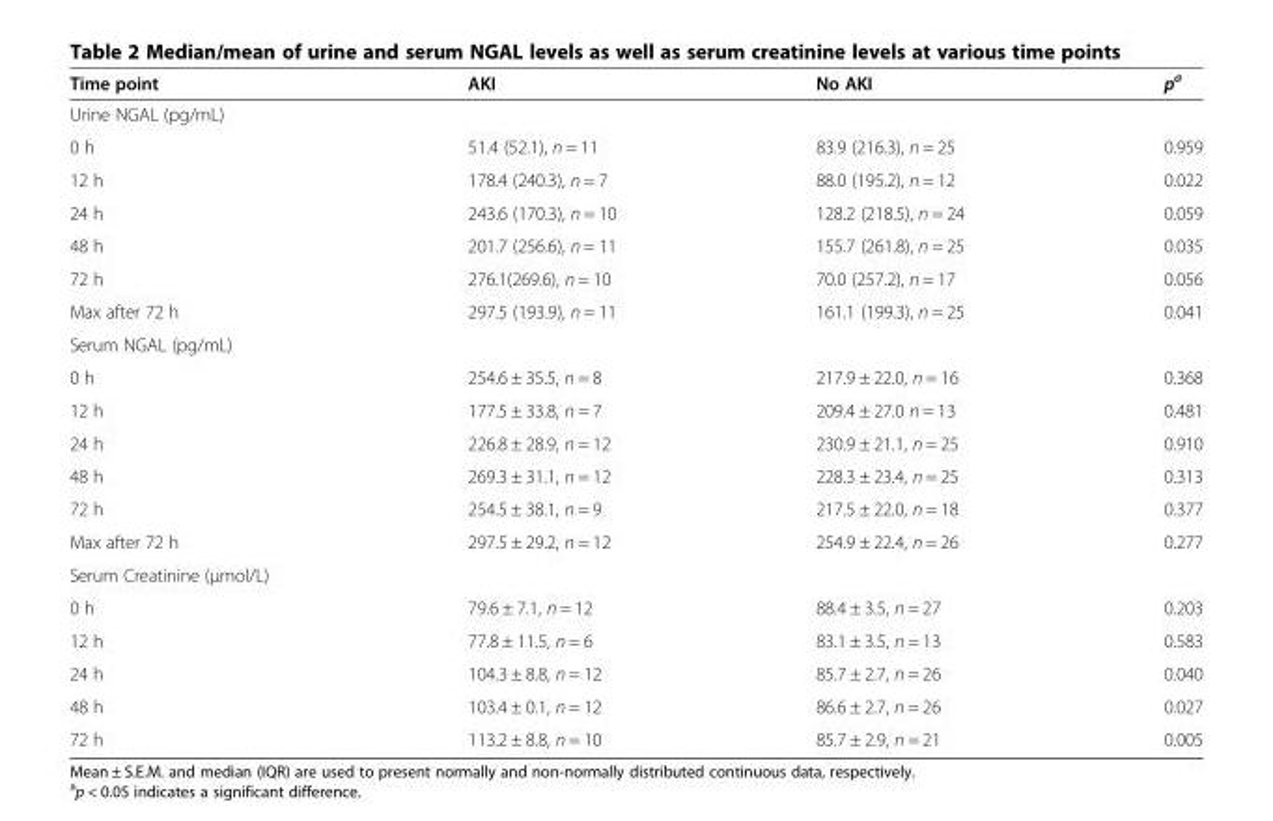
<table><thead><tr><td>Time point</td><td>AKI</td><td>No AKI</td><td>p<sup>a</sup></td></tr></thead><tbody><tr><td colspan="4">Urine NGAL (pg/mL)</td></tr><tr><td>0 h</td><td>51.4 (52.1), n = 11</td><td>83.9 (216.3), n = 25</td><td>0.959</td></tr><tr><td>12 h</td><td>178.4 (240.3), n = 7</td><td>88.0 (195.2), n = 12</td><td>0.022</td></tr><tr><td>24 h</td><td>243.6 (170.3), n = 10</td><td>128.2 (218.5), n = 24</td><td>0.059</td></tr><tr><td>48 h</td><td>201.7 (256.6), n = 11</td><td>155.7 (261.8), n = 25</td><td>0.035</td></tr><tr><td>72 h</td><td>276.1(269.6), n = 10</td><td>70.0 (257.2), n = 17</td><td>0.056</td></tr><tr><td>Max after 72 h</td><td>297.5 (193.9), n = 11</td><td>161.1 (199.3), n = 25</td><td>0.041</td></tr><tr><td colspan="4">Serum NGAL (pg/mL)</td></tr><tr><td>0 h</td><td>254.6 ± 35.5, n = 8</td><td>217.9 ± 22.0, n = 16</td><td>0.368</td></tr><tr><td>12 h</td><td>177.5 ± 33.8, n = 7</td><td>209.4 ± 27.0 n = 13</td><td>0.481</td></tr><tr><td>24 h</td><td>226.8 ± 28.9, n = 12</td><td>230.9 ± 21.1, n = 25</td><td>0.910</td></tr><tr><td>48 h</td><td>269.3 ± 31.1, n = 12</td><td>228.3 ± 23.4, n = 25</td><td>0.313</td></tr><tr><td>72 h</td><td>254.5 ± 38.1, n = 9</td><td>217.5 ± 22.0, n = 18</td><td>0.377</td></tr><tr><td>Max after 72 h</td><td>297.5 ± 29.2, n = 12</td><td>254.9 ± 22.4, n = 26</td><td>0.277</td></tr><tr><td colspan="4">Serum Creatinine (μmol/L)</td></tr><tr><td>0 h</td><td>79.6 ± 7.1, n = 12</td><td>88.4 ± 3.5, n = 27</td><td>0.203</td></tr><tr><td>12 h</td><td>77.8 ± 11.5, n = 6</td><td>83.1 ± 3.5, n = 13</td><td>0.583</td></tr><tr><td>24 h</td><td>104.3 ± 8.8, n = 12</td><td>85.7 ± 2.7, n = 26</td><td>0.040</td></tr><tr><td>48 h</td><td>103.4 ± 0.1, n = 12</td><td>86.6 ± 2.7, n = 26</td><td>0.027</td></tr><tr><td>72 h</td><td>113.2 ± 8.8, n = 10</td><td>85.7 ± 2.9, n = 21</td><td>0.005</td></tr></tbody></table>